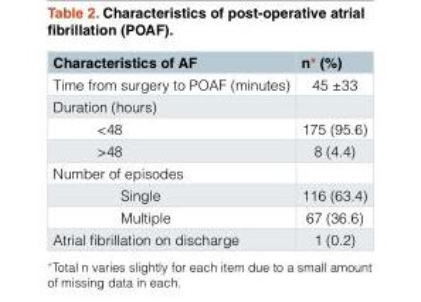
<table><thead><tr><td>Characteristics of AF</td><td>n* (%)</td></tr></thead><tbody><tr><td>Time from surgery to POAF (minutes)</td><td>45 ±33</td></tr><tr><td colspan="2">Duration (hours)</td></tr><tr><td>&lt;48</td><td>175 (95.6)</td></tr><tr><td>&gt;48</td><td>8 (4.4)</td></tr><tr><td colspan="2">Number of episodes</td></tr><tr><td>Single</td><td>116 (63.4)</td></tr><tr><td>Multiple</td><td>67 (36.6)</td></tr><tr><td>Atrial fibrillation on discharge</td><td>1 (0.2)</td></tr></tbody></table>